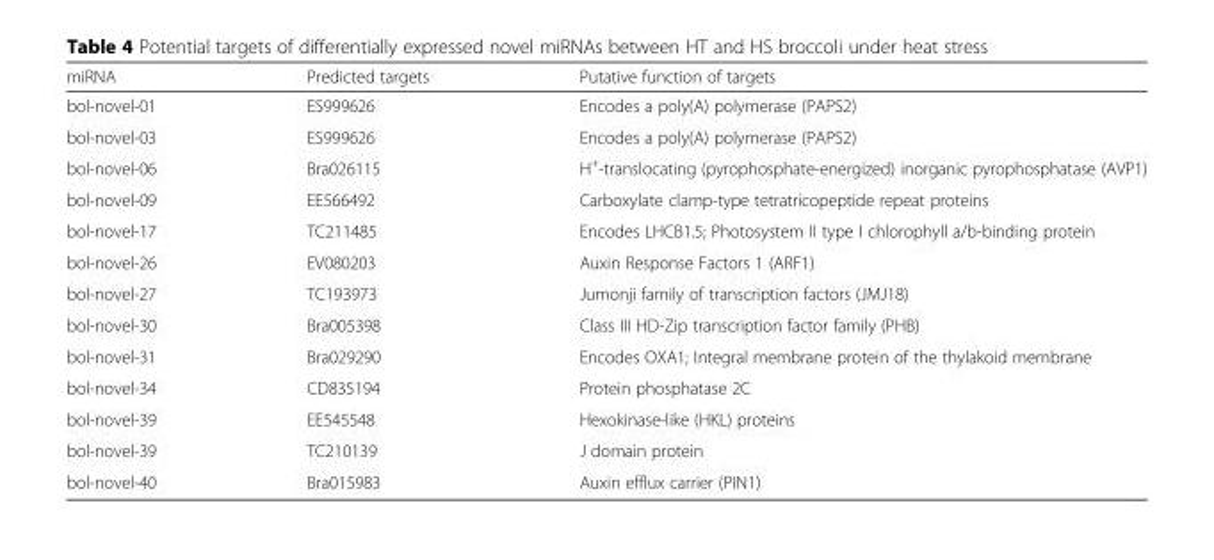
<table><thead><tr><td>miRNA</td><td>Predicted targets</td><td>Putative function of targets</td></tr></thead><tbody><tr><td>bol-novel-01</td><td>ES999626</td><td>Encodes a poly(A) polymerase (PAPS2)</td></tr><tr><td>bol-novel-03</td><td>ES999626</td><td>Encodes a poly(A) polymerase (PAPS2)</td></tr><tr><td>bol-novel-06</td><td>Bra026115</td><td>H<sup>+</sup>-translocating (pyrophosphate-energized) inorganic pyrophosphatase (AVP1)</td></tr><tr><td>bol-novel-09</td><td>EE566492</td><td>Carboxylate clamp-type tetratricopeptide repeat proteins</td></tr><tr><td>bol-novel-17</td><td>TC211485</td><td>Encodes LHCB1.5; Photosystem II type I chlorophyll a/b-binding protein</td></tr><tr><td>bol-novel-26</td><td>EV080203</td><td>Auxin Response Factors 1 (ARF1)</td></tr><tr><td>bol-novel-27</td><td>TC193973</td><td>Jumonji family of transcription factors (JMJ18)</td></tr><tr><td>bol-novel-30</td><td>Bra005398</td><td>Class III HD-Zip transcription factor family (PHB)</td></tr><tr><td>bol-novel-31</td><td>Bra029290</td><td>Encodes OXA1; Integral membrane protein of the thylakoid membrane</td></tr><tr><td>bol-novel-34</td><td>CD835194</td><td>Protein phosphatase 2C</td></tr><tr><td>bol-novel-39</td><td>EE545548</td><td>Hexokinase-like (HKL) proteins</td></tr><tr><td>bol-novel-39</td><td>TC210139</td><td>J domain protein</td></tr><tr><td>bol-novel-40</td><td>Bra015983</td><td>Auxin efflux carrier (PIN1)</td></tr></tbody></table>